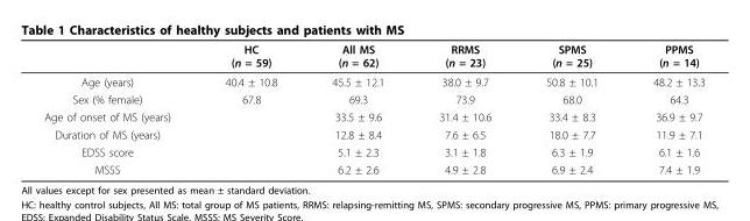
<table><thead><tr><td></td><td>HC (n = 59)</td><td>All MS (n = 62)</td><td>RRMS (n = 23)</td><td>SPMS (n = 25)</td><td>PPMS (n = 14)</td></tr></thead><tbody><tr><td>Age (years)</td><td>40.4 ± 10.8</td><td>45.5 ± 12.1</td><td>38.0 ± 9.7</td><td>50.8 ± 10.1</td><td>48.2 ± 13.3</td></tr><tr><td>Sex (% female)</td><td>67.8</td><td>69.3</td><td>73.9</td><td>68.0</td><td>64.3</td></tr><tr><td>Age of onset of MS (years)</td><td></td><td>33.5 ± 9.6</td><td>31.4 ± 10.6</td><td>33.4 ± 8.3</td><td>36.9 ± 9.7</td></tr><tr><td>Duration of MS (years)</td><td></td><td>12.8 ± 8.4</td><td>7.6 ± 6.5</td><td>18.0 ± 7.7</td><td>11.9 ± 7.1</td></tr><tr><td>EDSS score</td><td></td><td>5.1 ± 2.3</td><td>3.1 ± 1.8</td><td>6.3 ± 1.9</td><td>6.1 ± 1.6</td></tr><tr><td>MSSS</td><td></td><td>6.2 ± 2.6</td><td>4.9 ± 2.8</td><td>6.9 ± 2.4</td><td>7.4 ± 1.9</td></tr></tbody></table>